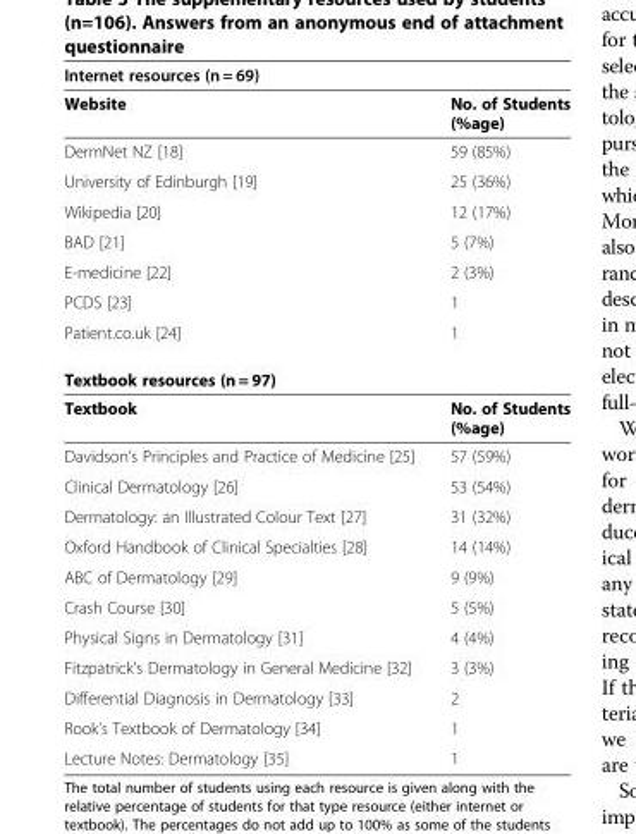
<table><thead><tr><td colspan="2">Internet resources (n = 69)</td></tr><tr><td>Website</td><td>No. of Students (%age)</td></tr></thead><tbody><tr><td>DermNet NZ [18]</td><td>59 (85%)</td></tr><tr><td>University of Edinburgh [19]</td><td>25 (36%)</td></tr><tr><td>Wikipedia [20]</td><td>12 (17%)</td></tr><tr><td>BAD [21]</td><td>5 (7%)</td></tr><tr><td>E-medicine [22]</td><td>2 (3%)</td></tr><tr><td>PCDS [23]</td><td>1</td></tr><tr><td>Patient.co.uk [24]</td><td>1</td></tr><tr><td colspan="2">Textbook resources (n = 97)</td></tr><tr><td>Textbook</td><td>No. of Students (%age)</td></tr><tr><td>Davidson’s Principles and Practice of Medicine [25]</td><td>57 (59%)</td></tr><tr><td>Clinical Dermatology [26]</td><td>53 (54%)</td></tr><tr><td>Dermatology: an Illustrated Colour Text [27]</td><td>31 (32%)</td></tr><tr><td>Oxford Handbook of Clinical Specialties [28]</td><td>14 (14%)</td></tr><tr><td>ABC of Dermatology [29]</td><td>9 (9%)</td></tr><tr><td>Crash Course [30]</td><td>5 (5%)</td></tr><tr><td>Physical Signs in Dermatology [31]</td><td>4 (4%)</td></tr><tr><td>Fitzpatrick’s Dermatology in General Medicine [32]</td><td>3 (3%)</td></tr><tr><td>Differential Diagnosis in Dermatology [33]</td><td>2</td></tr><tr><td>Rook’s Textbook of Dermatology [34]</td><td>1</td></tr><tr><td>Lecture Notes: Dermatology [35]</td><td>1</td></tr></tbody></table>